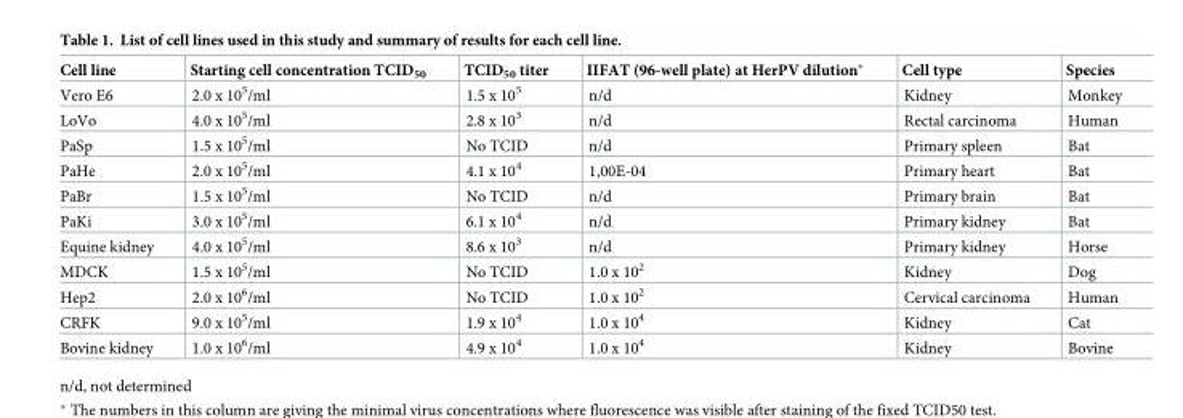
<table><thead><tr><td>Cell line</td><td>Starting cell concentration TCID<sub>50</sub></td><td>TCID<sub>50</sub> titer</td><td>IIFAT (96-well plate) at HerPV dilution*</td><td>Cell type</td><td>Species</td></tr></thead><tbody><tr><td>Vero E6</td><td>2.0 x 10<sup>5</sup>/ml</td><td>1.5 x 10<sup>5</sup></td><td>n/d</td><td>Kidney</td><td>Monkey</td></tr><tr><td>LoVo</td><td>4.0 x 10<sup>5</sup>/ml</td><td>2.8 x 10<sup>3</sup></td><td>n/d</td><td>Rectal carcinoma</td><td>Human</td></tr><tr><td>PaSp</td><td>1.5 x 10<sup>5</sup>/ml</td><td>No TCID</td><td>n/d</td><td>Primary spleen</td><td>Bat</td></tr><tr><td>PaHe</td><td>2.0 x 10<sup>5</sup>/ml</td><td>4.1 x 10<sup>4</sup></td><td>1,00E-04</td><td>Primary heart</td><td>Bat</td></tr><tr><td>PaBr</td><td>1.5 x 10<sup>5</sup>/ml</td><td>No TCID</td><td>n/d</td><td>Primary brain</td><td>Bat</td></tr><tr><td>PaKi</td><td>3.0 x 10<sup>5</sup>/ml</td><td>6.1 x 10<sup>4</sup></td><td>n/d</td><td>Primary kidney</td><td>Bat</td></tr><tr><td>Equine kidney</td><td>4.0 x 10<sup>5</sup>/ml</td><td>8.6 x 10<sup>3</sup></td><td>n/d</td><td>Primary kidney</td><td>Horse</td></tr><tr><td>MDCK</td><td>1.5 x 10<sup>5</sup>/ml</td><td>No TCID</td><td>1.0 x 10<sup>2</sup></td><td>Kidney</td><td>Dog</td></tr><tr><td>Hep2</td><td>2.0 x 10<sup>6</sup>/ml</td><td>No TCID</td><td>1.0 x 10<sup>2</sup></td><td>Cervical carcinoma</td><td>Human</td></tr><tr><td>CRFK</td><td>9.0 x 10<sup>5</sup>/ml</td><td>1.9 x 10<sup>4</sup></td><td>1.0 x 10<sup>4</sup></td><td>Kidney</td><td>Cat</td></tr><tr><td>Bovine kidney</td><td>1.0 x 10<sup>6</sup>/ml</td><td>4.9 x 10<sup>4</sup></td><td>1.0 x 10<sup>4</sup></td><td>Kidney</td><td>Bovine</td></tr></tbody></table>